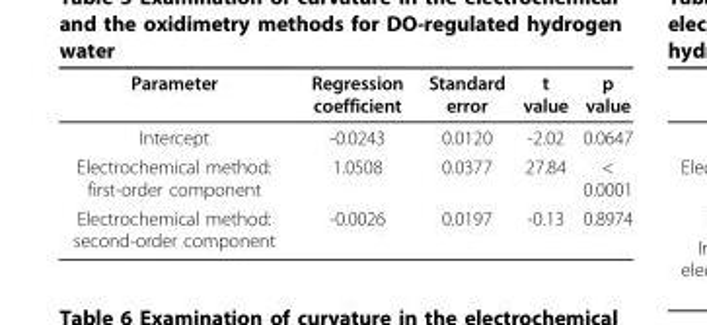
<table><thead><tr><td>Parameter</td><td>Regression coefficient</td><td>Standard error</td><td>t value</td><td>p value</td></tr></thead><tbody><tr><td>Intercept</td><td>-0.0243</td><td>0.0120</td><td>-2.02</td><td>0.0647</td></tr><tr><td>Electrochemical method: first-order component</td><td>1.0508</td><td>0.0377</td><td>27.84</td><td>&lt; 0.0001</td></tr><tr><td>Electrochemical method: second-order component</td><td>-0.0026</td><td>0.0197</td><td>-0.13</td><td>0.8974</td></tr></tbody></table>